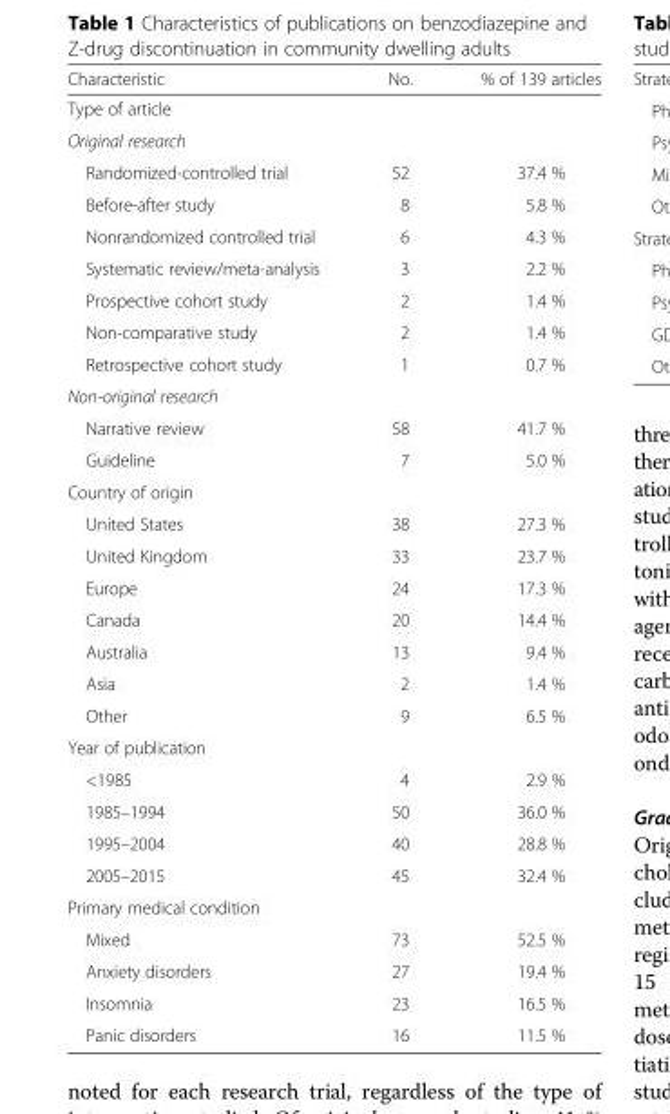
<table><thead><tr><td>Characteristic</td><td>No.</td><td>% of 139 articles</td></tr></thead><tbody><tr><td colspan="3">Type of article</td></tr><tr><td colspan="3">Original research</td></tr><tr><td>Randomized-controlled trial</td><td>52</td><td>37.4 %</td></tr><tr><td>Before-after study</td><td>8</td><td>5.8 %</td></tr><tr><td>Nonrandomized controlled trial</td><td>6</td><td>4.3 %</td></tr><tr><td>Systematic review/meta-analysis</td><td>3</td><td>2.2 %</td></tr><tr><td>Prospective cohort study</td><td>2</td><td>1.4 %</td></tr><tr><td>Non-comparative study</td><td>2</td><td>1.4 %</td></tr><tr><td>Retrospective cohort study</td><td>1</td><td>0.7 %</td></tr><tr><td colspan="3">Non-original research</td></tr><tr><td>Narrative review</td><td>58</td><td>41.7 %</td></tr><tr><td>Guideline</td><td>7</td><td>5.0 %</td></tr><tr><td colspan="3">Country of origin</td></tr><tr><td>United States</td><td>38</td><td>27.3 %</td></tr><tr><td>United Kingdom</td><td>33</td><td>23.7 %</td></tr><tr><td>Europe</td><td>24</td><td>17.3 %</td></tr><tr><td>Canada</td><td>20</td><td>14.4 %</td></tr><tr><td>Australia</td><td>13</td><td>9.4 %</td></tr><tr><td>Asia</td><td>2</td><td>1.4 %</td></tr><tr><td>Other</td><td>9</td><td>6.5 %</td></tr><tr><td colspan="3">Year of publication</td></tr><tr><td>&lt;1985</td><td>4</td><td>2.9 %</td></tr><tr><td>1985–1994</td><td>50</td><td>36.0 %</td></tr><tr><td>1995–2004</td><td>40</td><td>28.8 %</td></tr><tr><td>2005–2015</td><td>45</td><td>32.4 %</td></tr><tr><td colspan="3">Primary medical condition</td></tr><tr><td>Mixed</td><td>73</td><td>52.5 %</td></tr><tr><td>Anxiety disorders</td><td>27</td><td>19.4 %</td></tr><tr><td>Insomnia</td><td>23</td><td>16.5 %</td></tr><tr><td>Panic disorders</td><td>16</td><td>11.5 %</td></tr></tbody></table>